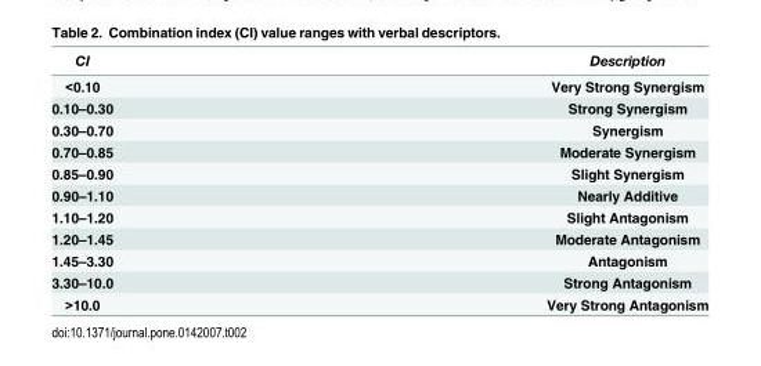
<table><thead><tr><td>CI</td><td>Description</td></tr></thead><tbody><tr><td>&lt;0.10</td><td>Very Strong Synergism</td></tr><tr><td>0.10–0.30</td><td>Strong Synergism</td></tr><tr><td>0.30–0.70</td><td>Synergism</td></tr><tr><td>0.70–0.85</td><td>Moderate Synergism</td></tr><tr><td>0.85–0.90</td><td>Slight Synergism</td></tr><tr><td>0.90–1.10</td><td>Nearly Additive</td></tr><tr><td>1.10–1.20</td><td>Slight Antagonism</td></tr><tr><td>1.20–1.45</td><td>Moderate Antagonism</td></tr><tr><td>1.45–3.30</td><td>Antagonism</td></tr><tr><td>3.30–10.0</td><td>Strong Antagonism</td></tr><tr><td>&gt;10.0</td><td>Very Strong Antagonism</td></tr></tbody></table>